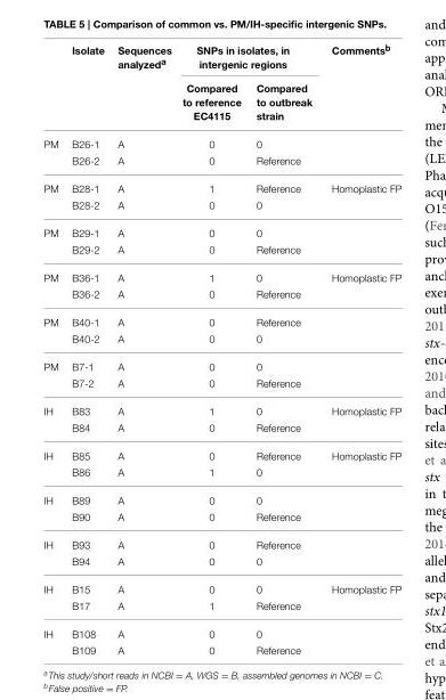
<table><thead><tr><td rowspan="2"></td><td rowspan="2">Isolate</td><td rowspan="2">Sequences analyzed<sup>a</sup></td><td colspan="2">SNPs in isolates, in intergenic regions</td><td rowspan="2">Comments<sup>b</sup></td></tr><tr><td>Compared to reference EC4115</td><td>Compared to outbreak strain</td></tr></thead><tbody><tr><td rowspan="2">PM</td><td>B26-1</td><td>A</td><td>0</td><td>0</td><td></td></tr><tr><td>B26-2</td><td>A</td><td>0</td><td>Reference</td><td></td></tr><tr><td rowspan="2">PM</td><td>B28-1</td><td>A</td><td>1</td><td>Reference</td><td>Homoplastic FP</td></tr><tr><td>B28-2</td><td>A</td><td>0</td><td>0</td><td></td></tr><tr><td rowspan="2">PM</td><td>B29-1</td><td>A</td><td>0</td><td>0</td><td></td></tr><tr><td>B29-2</td><td>A</td><td>0</td><td>Reference</td><td></td></tr><tr><td rowspan="2">PM</td><td>B36-1</td><td>A</td><td>1</td><td>0</td><td>Homoplastic FP</td></tr><tr><td>B36-2</td><td>A</td><td>0</td><td>Reference</td><td></td></tr><tr><td rowspan="2">PM</td><td>B40-1</td><td>A</td><td>0</td><td>Reference</td><td></td></tr><tr><td>B40-2</td><td>A</td><td>0</td><td>0</td><td></td></tr><tr><td rowspan="2">PM</td><td>B7-1</td><td>A</td><td>0</td><td>0</td><td></td></tr><tr><td>B7-2</td><td>A</td><td>0</td><td>Reference</td><td></td></tr><tr><td rowspan="2">IH</td><td>B83</td><td>A</td><td>1</td><td>0</td><td>Homoplastic FP</td></tr><tr><td>B84</td><td>A</td><td>0</td><td>Reference</td><td></td></tr><tr><td rowspan="2">IH</td><td>B85</td><td>A</td><td>0</td><td>Reference</td><td>Homoplastic FP</td></tr><tr><td>B86</td><td>A</td><td>1</td><td>0</td><td></td></tr><tr><td rowspan="2">IH</td><td>B89</td><td>A</td><td>0</td><td>0</td><td></td></tr><tr><td>B90</td><td>A</td><td>0</td><td>Reference</td><td></td></tr><tr><td rowspan="2">IH</td><td>B93</td><td>A</td><td>0</td><td>Reference</td><td></td></tr><tr><td>B94</td><td>A</td><td>0</td><td>0</td><td></td></tr><tr><td rowspan="2">IH</td><td>B15</td><td>A</td><td>0</td><td>0</td><td>Homoplastic FP</td></tr><tr><td>B17</td><td>A</td><td>1</td><td>Reference</td><td></td></tr><tr><td rowspan="2">IH</td><td>B108</td><td>A</td><td>0</td><td>0</td><td></td></tr><tr><td>B109</td><td>A</td><td>0</td><td>Reference</td><td></td></tr></tbody></table>